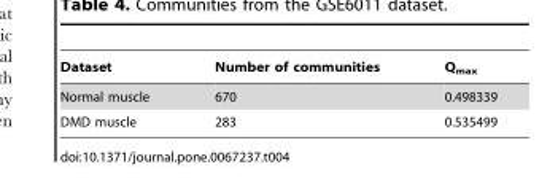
<table><thead><tr><td>Dataset</td><td>Number of communities</td><td>Q<sub>max</sub></td></tr></thead><tbody><tr><td>Normal muscle</td><td>670</td><td>0.498339</td></tr><tr><td>DMD muscle</td><td>283</td><td>0.535499</td></tr></tbody></table>